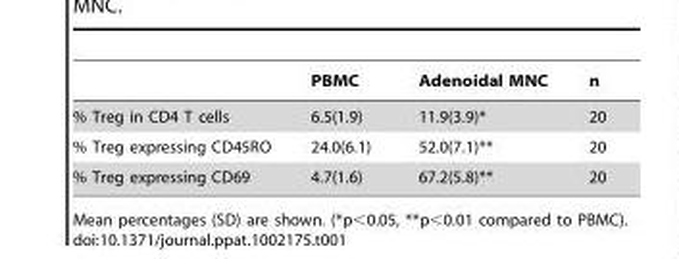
<table><thead><tr><td></td><td>PBMC</td><td>Adenoidal MNC</td><td>n</td></tr></thead><tbody><tr><td>% Treg in CD4 T cells</td><td>6.5(1.9)</td><td>11.9(3.9)*</td><td>20</td></tr><tr><td>% Treg expressing CD45RO</td><td>24.0(6.1)</td><td>52.0(7.1)**</td><td>20</td></tr><tr><td>% Treg expressing CD69</td><td>4.7(1.6)</td><td>67.2(5.8)**</td><td>20</td></tr></tbody></table>